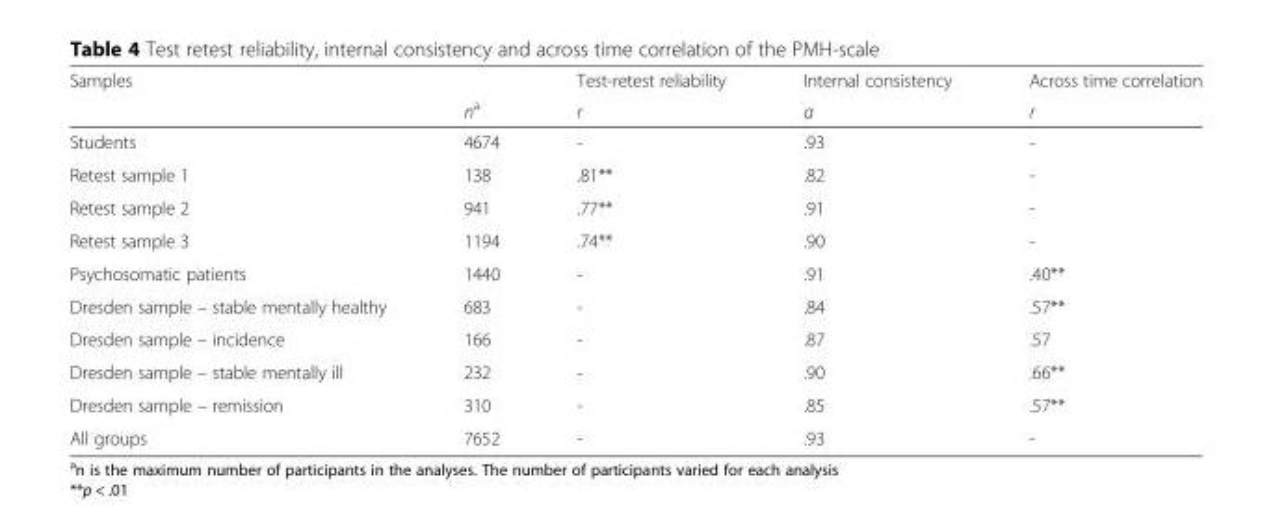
<table><thead><tr><td rowspan="2">Samples</td><td rowspan="2">n<sup>a</sup></td><td rowspan="2">Test-retest reliability r</td><td rowspan="2">Internal consistency α</td><td rowspan="2">Across time correlation r</td></tr><tr></tr></thead><tbody><tr><td>Students</td><td>4674</td><td>-</td><td>.93</td><td>-</td></tr><tr><td>Retest sample 1</td><td>138</td><td>.81**</td><td>.82</td><td>-</td></tr><tr><td>Retest sample 2</td><td>941</td><td>.77**</td><td>.91</td><td>-</td></tr><tr><td>Retest sample 3</td><td>1194</td><td>.74**</td><td>.90</td><td>-</td></tr><tr><td>Psychosomatic patients</td><td>1440</td><td>-</td><td>.91</td><td>.40**</td></tr><tr><td>Dresden sample – stable mentally healthy</td><td>683</td><td>-</td><td>.84</td><td>.57**</td></tr><tr><td>Dresden sample – incidence</td><td>166</td><td>-</td><td>.87</td><td>.57</td></tr><tr><td>Dresden sample – stable mentally ill</td><td>232</td><td>-</td><td>.90</td><td>.66**</td></tr><tr><td>Dresden sample – remission</td><td>310</td><td>-</td><td>.85</td><td>.57**</td></tr><tr><td>All groups</td><td>7652</td><td>-</td><td>.93</td><td>-</td></tr></tbody></table>